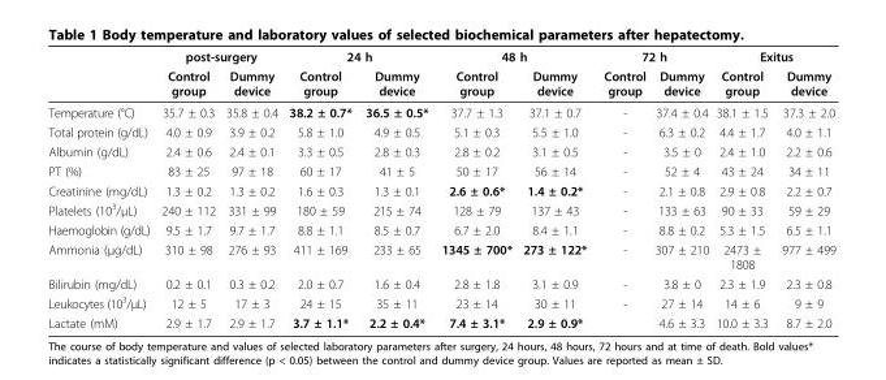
<table><thead><tr><td rowspan="2"></td><td colspan="2">post-surgery</td><td colspan="2">24 h</td><td colspan="2">48 h</td><td colspan="2">72 h</td><td colspan="2">Exitus</td></tr><tr><td>Control group</td><td>Dummy device</td><td>Control group</td><td>Dummy device</td><td>Control group</td><td>Dummy device</td><td>Control group</td><td>Dummy device</td><td>Control group</td><td>Dummy device</td></tr></thead><tbody><tr><td>Temperature (°C)</td><td>35.7 ± 0.3</td><td>35.8 ± 0.4</td><td>38.2 ± 0.7*</td><td>36.5 ± 0.5*</td><td>37.7 ± 1.3</td><td>37.1 ± 0.7</td><td>-</td><td>37.4 ± 0.4</td><td>38.1 ± 1.5</td><td>37.3 ± 2.0</td></tr><tr><td>Total protein (g/dL)</td><td>4.0 ± 0.9</td><td>3.9 ± 0.2</td><td>5.8 ± 1.0</td><td>4.9 ± 0.5</td><td>5.1 ± 0.3</td><td>5.5 ± 1.0</td><td>-</td><td>6.3 ± 0.2</td><td>4.4 ± 1.7</td><td>4.0 ± 1.1</td></tr><tr><td>Albumin (g/dL)</td><td>2.4 ± 0.6</td><td>2.4 ± 0.1</td><td>3.3 ± 0.5</td><td>2.8 ± 0.3</td><td>2.8 ± 0.2</td><td>3.1 ± 0.5</td><td>-</td><td>3.5 ± 0</td><td>2.4 ± 1.0</td><td>2.2 ± 0.6</td></tr><tr><td>PT (%)</td><td>83 ± 25</td><td>97 ± 18</td><td>60 ± 17</td><td>41 ± 5</td><td>50 ± 17</td><td>56 ± 14</td><td>-</td><td>52 ± 4</td><td>43 ± 24</td><td>34 ± 11</td></tr><tr><td>Creatinine (mg/dL)</td><td>1.3 ± 0.2</td><td>1.3 ± 0.2</td><td>1.6 ± 0.3</td><td>1.3 ± 0.1</td><td>2.6 ± 0.6*</td><td>1.4 ± 0.2*</td><td>-</td><td>2.1 ± 0.8</td><td>2.9 ± 0.8</td><td>2.2 ± 0.7</td></tr><tr><td>Platelets (10<sup>3</sup>/μL)</td><td>240 ± 112</td><td>331 ± 99</td><td>180 ± 59</td><td>215 ± 74</td><td>128 ± 79</td><td>137 ± 43</td><td>-</td><td>133 ± 63</td><td>90 ± 33</td><td>59 ± 29</td></tr><tr><td>Haemoglobin (g/dL)</td><td>9.5 ± 1.7</td><td>9.7 ± 1.7</td><td>8.8 ± 1.1</td><td>8.5 ± 0.7</td><td>6.7 ± 2.0</td><td>8.4 ± 1.1</td><td>-</td><td>8.8 ± 0.2</td><td>5.3 ± 1.5</td><td>6.5 ± 1.1</td></tr><tr><td>Ammonia (μg/dL)</td><td>310 ± 98</td><td>276 ± 93</td><td>411 ± 169</td><td>233 ± 65</td><td>1345 ± 700*</td><td>273 ± 122*</td><td>-</td><td>307 ± 210</td><td>2473 ± 1808</td><td>977 ± 499</td></tr><tr><td>Bilirubin (mg/dL)</td><td>0.2 ± 0.1</td><td>0.3 ± 0.2</td><td>2.0 ± 0.7</td><td>1.6 ± 0.4</td><td>2.8 ± 1.8</td><td>3.1 ± 0.9</td><td>-</td><td>3.8 ± 0</td><td>2.3 ± 1.9</td><td>2.3 ± 0.8</td></tr><tr><td>Leukocytes (10<sup>3</sup>/μL)</td><td>12 ± 5</td><td>17 ± 3</td><td>24 ± 15</td><td>35 ± 11</td><td>23 ± 14</td><td>30 ± 11</td><td>-</td><td>27 ± 14</td><td>14 ± 6</td><td>9 ± 9</td></tr><tr><td>Lactate (mM)</td><td>2.9 ± 1.7</td><td>2.9 ± 1.7</td><td>3.7 ± 1.1*</td><td>2.2 ± 0.4*</td><td>7.4 ± 3.1*</td><td>2.9 ± 0.9*</td><td></td><td>4.6 ± 3.3</td><td>10.0 ± 3.3</td><td>8.7 ± 2.0</td></tr></tbody></table>